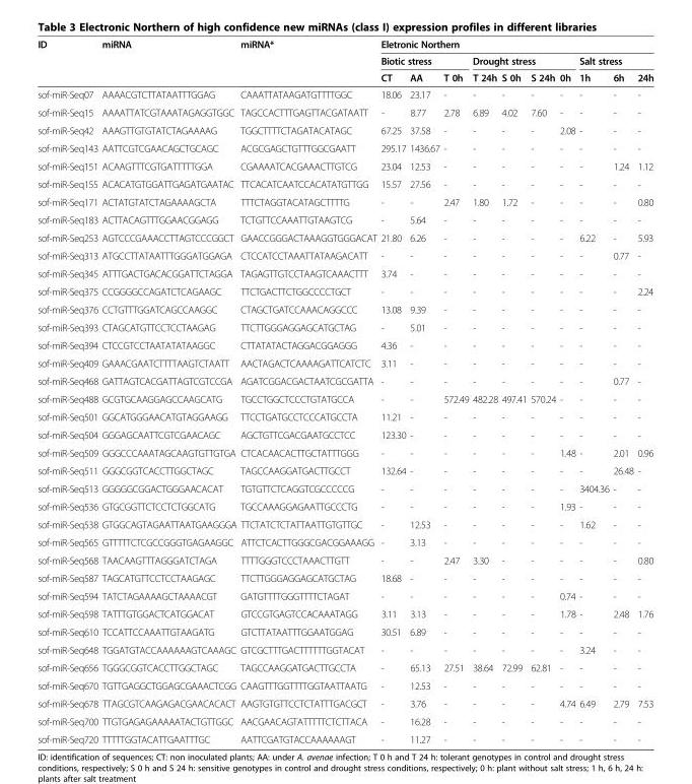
<table><thead><tr><td rowspan="3">ID</td><td rowspan="3">miRNA</td><td rowspan="3">miRNA*</td><td colspan="10">Eletronic Northern</td></tr><tr><td colspan="3">Biotic stress</td><td colspan="4">Drought stress</td><td colspan="3">Salt stress</td></tr><tr><td>CT</td><td>AA</td><td>T 0h</td><td>T 24h</td><td>S 0h</td><td>S 24h</td><td>0h</td><td>1h</td><td>6h</td><td>24h</td></tr></thead><tbody><tr><td>sof-miR-Seq07</td><td>AAAACGTCTTATAATTTGGAG</td><td>CAAATTATAAGATGTTTTGGC</td><td>18.06</td><td>23.17</td><td>-</td><td>-</td><td>-</td><td>-</td><td>-</td><td>-</td><td>-</td><td>-</td></tr><tr><td>sof-miR-Seq15</td><td>AAAATTATCGTAAATAGAGGTGGC</td><td>TAGCCACTTTGAGTTACGATAATT</td><td>-</td><td>8.77</td><td>2.78</td><td>6.89</td><td>4.02</td><td>7.60</td><td>-</td><td>-</td><td>-</td><td>-</td></tr><tr><td>sof-miR-Seq42</td><td>AAAGTTGTGTATCTAGAAAAG</td><td>TGGCTTTTCTAGATACATAGC</td><td>67.25</td><td>37.58</td><td>-</td><td>-</td><td>-</td><td>-</td><td>2.08</td><td>-</td><td>-</td><td>-</td></tr><tr><td>sof-miR-Seq143</td><td>AATTCGTCGAACAGCTGCAGC</td><td>ACGCGAGCTGTTTGGCGAATT</td><td>295.17</td><td>1436.67</td><td>-</td><td>-</td><td>-</td><td>-</td><td>-</td><td>-</td><td>-</td><td>-</td></tr><tr><td>sof-miR-Seq151</td><td>ACAAGTTTCGTGATTTTTGGA</td><td>CGAAAATCACGAAACTTGTCG</td><td>23.04</td><td>12.53</td><td>-</td><td>-</td><td>-</td><td>-</td><td>-</td><td>-</td><td>1.24</td><td>1.12</td></tr><tr><td>sof-miR-Seq155</td><td>ACACATGTGGATTGAGATGAATAC</td><td>TTCACATCAATCCACATATGTTGG</td><td>15.57</td><td>27.56</td><td>-</td><td>-</td><td>-</td><td>-</td><td>-</td><td>-</td><td>-</td><td>-</td></tr><tr><td>sof-miR-Seq171</td><td>ACTATGTATCTAGAAAAGCTA</td><td>TTTCTAGGTACATAGCTTTTG</td><td>-</td><td>-</td><td>2.47</td><td>1.80</td><td>1.72</td><td>-</td><td>-</td><td>-</td><td>-</td><td>0.80</td></tr><tr><td>sof-miR-Seq183</td><td>ACTTACAGTTTGGAACGGAGG</td><td>TCTGTTCCAAATTGTAAGTCG</td><td>-</td><td>5.64</td><td>-</td><td>-</td><td>-</td><td>-</td><td>-</td><td>-</td><td>-</td><td>-</td></tr><tr><td>sof-miR-Seq253</td><td>AGTCCCGAAACCTTAGTCCCGGCT</td><td>GAACCGGGACTAAAGGTGGGACAT</td><td>21.80</td><td>6.26</td><td>-</td><td>-</td><td>-</td><td>-</td><td>-</td><td>6.22</td><td>-</td><td>5.93</td></tr><tr><td>sof-miR-Seq313</td><td>ATGCCTTATAATTTGGGATGGAGA</td><td>CTCCATCCTAAATTATAAGACATT</td><td>-</td><td>-</td><td>-</td><td>-</td><td>-</td><td>-</td><td>-</td><td>-</td><td>0.77</td><td>-</td></tr><tr><td>sof-miR-Seq345</td><td>ATTTGACTGACACGGATTCTAGGA</td><td>TAGAGTTGTCCTAAGTCAAACTTT</td><td>3.74</td><td>-</td><td>-</td><td>-</td><td>-</td><td>-</td><td>-</td><td>-</td><td>-</td><td>-</td></tr><tr><td>sof-miR-Seq375</td><td>CCGGGGCCAGATCTCAGAAGC</td><td>TTCTGACTTCTGGCCCCTGCT</td><td>-</td><td>-</td><td>-</td><td>-</td><td>-</td><td>-</td><td>-</td><td>-</td><td>-</td><td>2.24</td></tr><tr><td>sof-miR-Seq376</td><td>CCTGTTTGGATCAGCCAAGGC</td><td>CTAGCTGATCCAAACAGGCCC</td><td>13.08</td><td>9.39</td><td>-</td><td>-</td><td>-</td><td>-</td><td>-</td><td>-</td><td>-</td><td>-</td></tr><tr><td>sof-miR-Seq393</td><td>CTAGCATGTTCCTCCTAAGAG</td><td>TTCTTGGGAGGAGCATGCTAG</td><td>-</td><td>5.01</td><td>-</td><td>-</td><td>-</td><td>-</td><td>-</td><td>-</td><td>-</td><td>-</td></tr><tr><td>sof-miR-Seq394</td><td>CTCCGTCCTAATATATAAGGC</td><td>CTTATATACTAGGACGGAGGG</td><td>4.36</td><td>-</td><td>-</td><td>-</td><td>-</td><td>-</td><td>-</td><td>-</td><td>-</td><td>-</td></tr><tr><td>sof-miR-Seq409</td><td>GAAACGAATCTTTTAAGTCTAATT</td><td>AACTAGACTCAAAAGATTCATCTC</td><td>3.11</td><td>-</td><td>-</td><td>-</td><td>-</td><td>-</td><td>-</td><td>-</td><td>-</td><td>-</td></tr><tr><td>sof-miR-Seq468</td><td>GATTAGTCACGATTAGTCGTCCGA</td><td>AGATCGGACGACTAATCGCGATTA</td><td>-</td><td>-</td><td>-</td><td>-</td><td>-</td><td>-</td><td>-</td><td>-</td><td>0.77</td><td>-</td></tr><tr><td>sof-miR-Seq488</td><td>GCGTGCAAGGAGCCAAGCATG</td><td>TGCCTGGCTCCCTGTATGCCA</td><td>-</td><td>-</td><td>572.49</td><td>482.28</td><td>497.41</td><td>570.24</td><td>-</td><td>-</td><td>-</td><td>-</td></tr><tr><td>sof-miR-Seq501</td><td>GGCATGGGAACATGTAGGAAGG</td><td>TTCCTGATGCCTCCCATGCCTA</td><td>11.21</td><td>-</td><td>-</td><td>-</td><td>-</td><td>-</td><td>-</td><td>-</td><td>-</td><td>-</td></tr><tr><td>sof-miR-Seq504</td><td>GGGAGCAATTCGTCGAACAGC</td><td>AGCTGTTCGACGAATGCCTCC</td><td>123.30</td><td>-</td><td>-</td><td>-</td><td>-</td><td>-</td><td>-</td><td>-</td><td>-</td><td>-</td></tr><tr><td>sof-miR-Seq509</td><td>GGGCCCAAATAGCAAGTGTTGTGA</td><td>CTCACAACACTTGCTATTTGGG</td><td>-</td><td>-</td><td>-</td><td>-</td><td>-</td><td>-</td><td>1.48</td><td>-</td><td>2.01</td><td>0.96</td></tr><tr><td>sof-miR-Seq511</td><td>GGGCGGTCACCTTGGCTAGC</td><td>TAGCCAAGGATGACTTGCCT</td><td>132.64</td><td>-</td><td>-</td><td>-</td><td>-</td><td>-</td><td>-</td><td>-</td><td>26.48</td><td>-</td></tr><tr><td>sof-miR-Seq513</td><td>GGGGGCGGACTGGGAACACAT</td><td>TGTGTTCTCAGGTCGCCCCCG</td><td>-</td><td>-</td><td>-</td><td>-</td><td>-</td><td>-</td><td>-</td><td>3404.36</td><td>-</td><td>-</td></tr><tr><td>sof-miR-Seq536</td><td>GTGCGGTTCTCCTCTGGCATG</td><td>TGCCAAAGGAGAATTGCCCTG</td><td>-</td><td>-</td><td>-</td><td>-</td><td>-</td><td>-</td><td>1.93</td><td>-</td><td>-</td><td>-</td></tr><tr><td>sof-miR-Seq538</td><td>GTGGCAGTAGAATTAATGAAGGGA</td><td>TTCTATCTCTATTAATTGTGTTGC</td><td>-</td><td>12.53</td><td>-</td><td>-</td><td>-</td><td>-</td><td>-</td><td>1.62</td><td>-</td><td>-</td></tr><tr><td>sof-miR-Seq565</td><td>GTTTTTCTCGCCGGGTGAGAAGGC</td><td>ATTCTCACTTGGGCGACGGAAAGG</td><td>-</td><td>3.13</td><td>-</td><td>-</td><td>-</td><td>-</td><td>-</td><td>-</td><td>-</td><td>-</td></tr><tr><td>sof-miR-Seq568</td><td>TAACAAGTTTAGGGATCTAGA</td><td>TTTTGGGTCCCTAAACTTGTT</td><td>-</td><td>-</td><td>2.47</td><td>3.30</td><td>-</td><td>-</td><td>-</td><td>-</td><td>-</td><td>0.80</td></tr><tr><td>sof-miR-Seq587</td><td>TAGCATGTTCCTCCTAAGAGC</td><td>TTCTTGGGAGGAGCATGCTAG</td><td>18.68</td><td>-</td><td>-</td><td>-</td><td>-</td><td>-</td><td>-</td><td>-</td><td>-</td><td>-</td></tr><tr><td>sof-miR-Seq594</td><td>TATCTAGAAAAGCTAAAACGT</td><td>GATGTTTTGGGTTTTCTAGAT</td><td>-</td><td>-</td><td>-</td><td>-</td><td>-</td><td>-</td><td>0.74</td><td>-</td><td>-</td><td>-</td></tr><tr><td>sof-miR-Seq598</td><td>TATTTGTGGACTCATGGACAT</td><td>GTCCGTGAGTCCACAAATAGG</td><td>3.11</td><td>3.13</td><td>-</td><td>-</td><td>-</td><td>-</td><td>1.78</td><td>-</td><td>2.48</td><td>1.76</td></tr><tr><td>sof-miR-Seq610</td><td>TCCATTCCAAATTGTAAGATG</td><td>GTCTTATAATTTGGAATGGAG</td><td>30.51</td><td>6.89</td><td>-</td><td>-</td><td>-</td><td>-</td><td>-</td><td>-</td><td>-</td><td>-</td></tr><tr><td>sof-miR-Seq648</td><td>TGGATGTACCAAAAAAGTCAAAGC</td><td>GTCGCTTTGACTTTTTTGGTACAT</td><td>-</td><td>-</td><td>-</td><td>-</td><td>-</td><td>-</td><td>-</td><td>3.24</td><td>-</td><td>-</td></tr><tr><td>sof-miR-Seq656</td><td>TGGGCGGTCACCTTGGCTAGC</td><td>TAGCCAAGGATGACTTGCCTA</td><td>-</td><td>65.13</td><td>27.51</td><td>38.64</td><td>72.99</td><td>62.81</td><td>-</td><td>-</td><td>-</td><td>-</td></tr><tr><td>sof-miR-Seq670</td><td>TGTTGAGGCTGGAGCGAAACTCGG</td><td>CAAGTTTGGTTTTGGTAATTAATG</td><td>-</td><td>12.53</td><td>-</td><td>-</td><td>-</td><td>-</td><td>-</td><td>-</td><td>-</td><td>-</td></tr><tr><td>sof-miR-Seq678</td><td>TTAGCGTCAAGAGACGAACACACT</td><td>AAGTGTGTTCCTCTATTTGACGCT</td><td>-</td><td>3.76</td><td>-</td><td>-</td><td>-</td><td>-</td><td>4.74</td><td>6.49</td><td>2.79</td><td>7.53</td></tr><tr><td>sof-miR-Seq700</td><td>TTGTGAGAGAAAAATACTGTTGGC</td><td>AACGAACAGTATTTTTCTCTTACA</td><td>-</td><td>16.28</td><td>-</td><td>-</td><td>-</td><td>-</td><td>-</td><td>-</td><td>-</td><td>-</td></tr><tr><td>sof-miR-Seq720</td><td>TTTTTGGTACATTGAATTTGC</td><td>AATTCGATGTACCAAAAAAGT</td><td>-</td><td>11.27</td><td>-</td><td>-</td><td>-</td><td>-</td><td>-</td><td>-</td><td>-</td><td>-</td></tr></tbody></table>